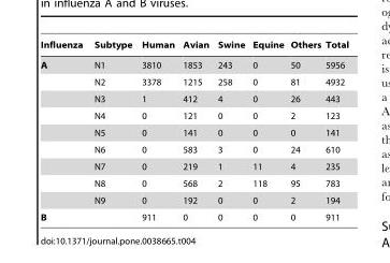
<table><thead><tr><td>Influenza</td><td>Subtype</td><td>Human</td><td>Avian</td><td>Swine</td><td>Equine</td><td>Others</td><td>Total</td></tr></thead><tbody><tr><td rowspan="9">A</td><td>N1</td><td>3810</td><td>1853</td><td>243</td><td>0</td><td>50</td><td>5956</td></tr><tr><td>N2</td><td>3378</td><td>1215</td><td>258</td><td>0</td><td>81</td><td>4932</td></tr><tr><td>N3</td><td>1</td><td>412</td><td>4</td><td>0</td><td>26</td><td>443</td></tr><tr><td>N4</td><td>0</td><td>121</td><td>0</td><td>0</td><td>2</td><td>123</td></tr><tr><td>N5</td><td>0</td><td>141</td><td>0</td><td>0</td><td>0</td><td>141</td></tr><tr><td>N6</td><td>0</td><td>583</td><td>3</td><td>0</td><td>24</td><td>610</td></tr><tr><td>N7</td><td>0</td><td>219</td><td>1</td><td>11</td><td>4</td><td>235</td></tr><tr><td>N8</td><td>0</td><td>568</td><td>2</td><td>118</td><td>95</td><td>783</td></tr><tr><td>N9</td><td>0</td><td>192</td><td>0</td><td>0</td><td>2</td><td>194</td></tr><tr><td>B</td><td></td><td>911</td><td>0</td><td>0</td><td>0</td><td>0</td><td>911</td></tr></tbody></table>